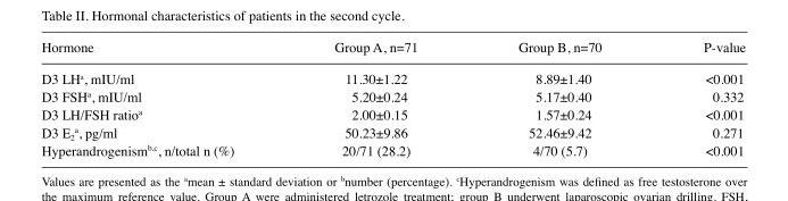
<table><thead><tr><td>Hormone</td><td>Group A, n=71</td><td>Group B, n=70</td><td>P-value</td></tr></thead><tbody><tr><td>D3 LH<sup>a</sup>, mIU/ml</td><td>11.30±1.22</td><td>8.89±1.40</td><td>&lt;0.001</td></tr><tr><td>D3 FSH<sup>a</sup>, mIU/ml</td><td>5.20±0.24</td><td>5.17±0.40</td><td>0.332</td></tr><tr><td>D3 LH/FSH ratio<sup>a</sup></td><td>2.00±0.15</td><td>1.57±0.24</td><td>&lt;0.001</td></tr><tr><td>D3 E<sub>2</sub> <sup>a</sup>, pg/ml</td><td>50.23±9.86</td><td>52.46±9.42</td><td>0.271</td></tr><tr><td>Hyperandrogenism<sup>b,c</sup>, n/total n (%)</td><td>20/71 (28.2)</td><td>4/70 (5.7)</td><td>&lt;0.001</td></tr></tbody></table>